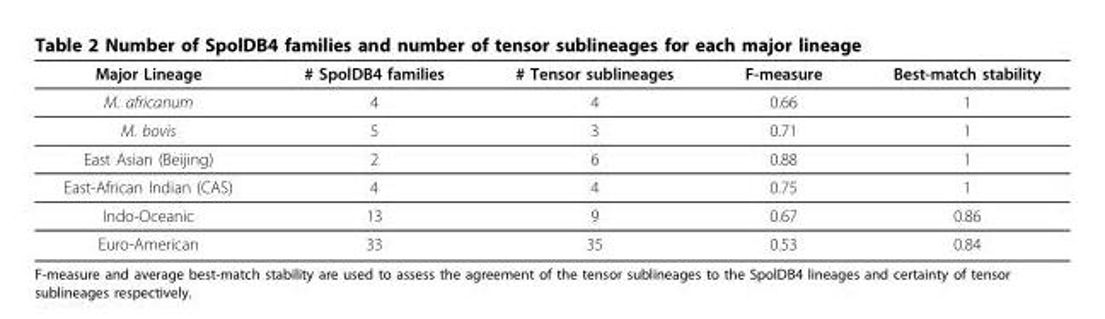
<table><thead><tr><td>Major Lineage</td><td># SpolDB4 families</td><td># Tensor sublineages</td><td>F-measure</td><td>Best-match stability</td></tr></thead><tbody><tr><td>M. africanum</td><td>4</td><td>4</td><td>0.66</td><td>1</td></tr><tr><td>M. bovis</td><td>5</td><td>3</td><td>0.71</td><td>1</td></tr><tr><td>East Asian (Beijing)</td><td>2</td><td>6</td><td>0.88</td><td>1</td></tr><tr><td>East-African Indian (CAS)</td><td>4</td><td>4</td><td>0.75</td><td>1</td></tr><tr><td>Indo-Oceanic</td><td>13</td><td>9</td><td>0.67</td><td>0.86</td></tr><tr><td>Euro-American</td><td>33</td><td>35</td><td>0.53</td><td>0.84</td></tr></tbody></table>